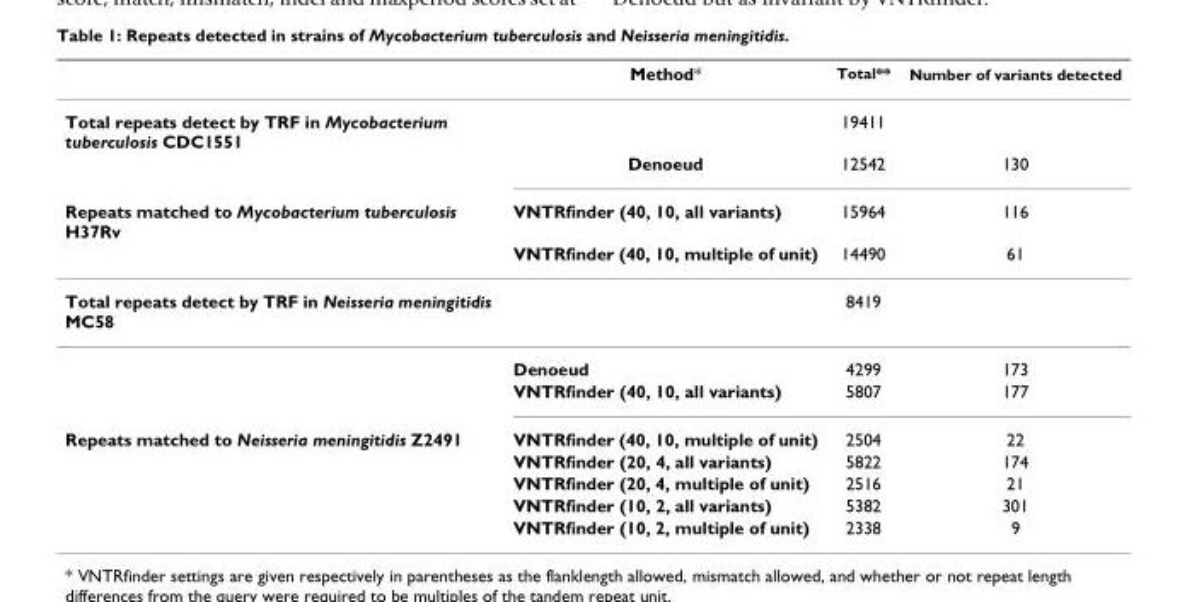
<table><thead><tr><td></td><td>Method*</td><td>Total**</td><td>Number of variants detected</td></tr></thead><tbody><tr><td rowspan="2">Total repeats detect by TRF in Mycobacterium tuberculosis CDC1551</td><td></td><td>19411</td><td></td></tr><tr><td>Denoeud</td><td>12542</td><td>130</td></tr><tr><td rowspan="2">Repeats matched to Mycobacterium tuberculosis H37Rv</td><td>VNTRfinder (40, 10, all variants)</td><td>15964</td><td>116</td></tr><tr><td>VNTRfinder (40, 10, multiple of unit)</td><td>14490</td><td>61</td></tr><tr><td rowspan="3">Total repeats detect by TRF in Neisseria meningitidis MC58</td><td></td><td>8419</td><td></td></tr><tr><td>Denoeud</td><td>4299</td><td>173</td></tr><tr><td>VNTRfinder (40, 10, all variants)</td><td>5807</td><td>177</td></tr><tr><td rowspan="5">Repeats matched to Neisseria meningitidis Z2491</td><td>VNTRfinder (40, 10, multiple of unit)</td><td>2504</td><td>22</td></tr><tr><td>VNTRfinder (20, 4, all variants)</td><td>5822</td><td>174</td></tr><tr><td>VNTRfinder (20, 4, multiple of unit)</td><td>2516</td><td>21</td></tr><tr><td>VNTRfinder (10, 2, all variants)</td><td>5382</td><td>301</td></tr><tr><td>VNTRfinder (10, 2, multiple of unit)</td><td>2338</td><td>9</td></tr></tbody></table>